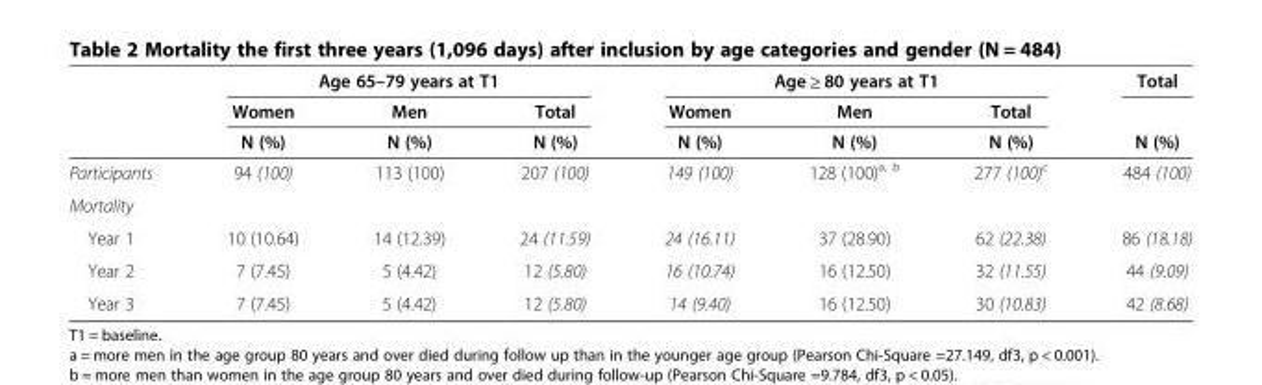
<table><thead><tr><td rowspan="3"></td><td colspan="3">Age 65–79 years at T1</td><td colspan="3">Age ≥ 80 years at T1</td><td rowspan="3">Total N (%)</td></tr><tr><td rowspan="2">Women N (%)</td><td rowspan="2">Men N (%)</td><td rowspan="2">Total N (%)</td><td rowspan="2">Women N (%)</td><td rowspan="2">Men N (%)</td><td rowspan="2">Total N (%)</td></tr><tr></tr></thead><tbody><tr><td>Participants</td><td>94 (100)</td><td>113 (100)</td><td>207 (100)</td><td>149 (100)</td><td>128 (100)<sup>a, b</sup></td><td>277 (100)<sup>c</sup></td><td>484 (100)</td></tr><tr><td colspan="8">Mortality</td></tr><tr><td>Year 1</td><td>10 (10.64)</td><td>14 (12.39)</td><td>24 (11.59)</td><td>24 (16.11)</td><td>37 (28.90)</td><td>62 (22.38)</td><td>86 (18.18)</td></tr><tr><td>Year 2</td><td>7 (7.45)</td><td>5 (4.42)</td><td>12 (5.80)</td><td>16 (10.74)</td><td>16 (12.50)</td><td>32 (11.55)</td><td>44 (9.09)</td></tr><tr><td>Year 3</td><td>7 (7.45)</td><td>5 (4.42)</td><td>12 (5.80)</td><td>14 (9.40)</td><td>16 (12.50)</td><td>30 (10.83)</td><td>42 (8.68)</td></tr></tbody></table>